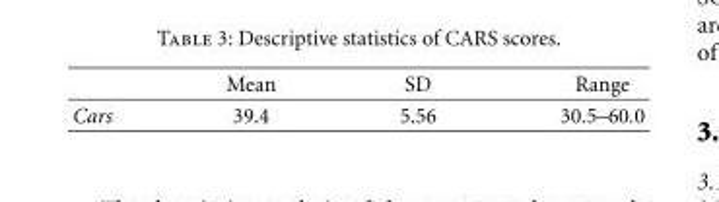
<table><thead><tr><td></td><td>Mean</td><td>SD</td><td>Range</td></tr></thead><tbody><tr><td>Cars</td><td>39.4</td><td>5.56</td><td>30.5–60.0</td></tr></tbody></table>